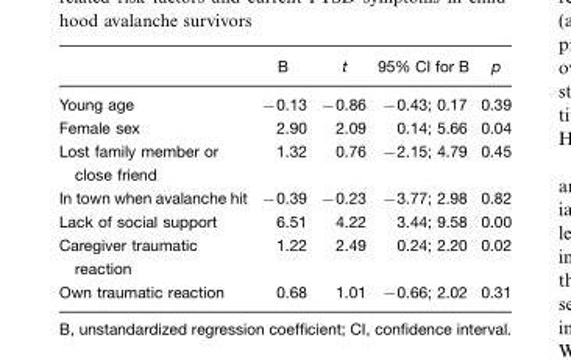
<table><thead><tr><td></td><td>B</td><td>t</td><td>95% CI for B</td><td>p</td></tr></thead><tbody><tr><td>Young age</td><td>−0.13</td><td>−0.86</td><td>−0.43; 0.17</td><td>0.39</td></tr><tr><td>Female sex</td><td>2.90</td><td>2.09</td><td>0.14; 5.66</td><td>0.04</td></tr><tr><td>Lost family member or close friend</td><td>1.32</td><td>0.76</td><td>−2.15; 4.79</td><td>0.45</td></tr><tr><td>In town when avalanche hit</td><td>−0.39</td><td>−0.23</td><td>−3.77; 2.98</td><td>0.82</td></tr><tr><td>Lack of social support</td><td>6.51</td><td>4.22</td><td>3.44; 9.58</td><td>0.00</td></tr><tr><td>Caregiver traumatic reaction</td><td>1.22</td><td>2.49</td><td>0.24; 2.20</td><td>0.02</td></tr><tr><td>Own traumatic reaction</td><td>0.68</td><td>1.01</td><td>−0.66; 2.02</td><td>0.31</td></tr></tbody></table>